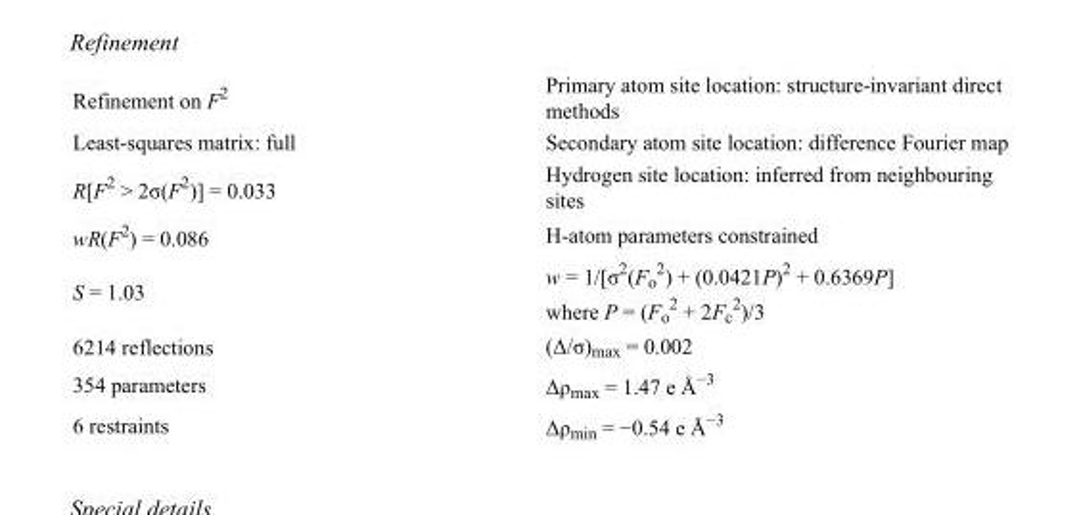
<table><tbody><tr><td>Refinement on F<sup>2</sup></td><td>Primary atom site location: structure-invariant direct methods</td></tr><tr><td>Least-squares matrix: full</td><td>Secondary atom site location: difference Fourier map</td></tr><tr><td>R[F<sup>2</sup> &gt; 2σ(F<sup>2</sup>)] = 0.033</td><td>Hydrogen site location: inferred from neighbouring sites</td></tr><tr><td>wR(F<sup>2</sup>) = 0.086</td><td>H-atom parameters constrained</td></tr><tr><td>S = 1.03</td><td>w = 1/[σ<sup>2</sup>(F<sub>o</sub> <sup>2</sup>) + (0.0421P)<sup>2</sup> + 0.6369P] where P = (F<sub>o</sub> <sup>2</sup> + 2F<sub>c</sub> <sup>2</sup>)/3</td></tr><tr><td>6214 reflections</td><td>(Δ/σ)<sub>max</sub> = 0.002</td></tr><tr><td>354 parameters</td><td>Δρ<sub>max</sub> = 1.47 e Å<sup>−3</sup></td></tr><tr><td>6 restraints</td><td>Δρ<sub>min</sub> = −0.54 e Å<sup>−3</sup></td></tr></tbody></table>